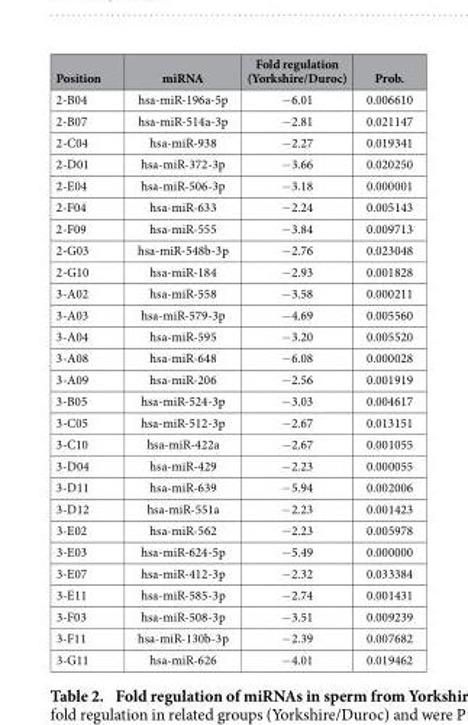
<table><thead><tr><td>Position</td><td>miRNA</td><td>Fold regulation (Yorkshire/Duroc)</td><td>Prob.</td></tr></thead><tbody><tr><td>2-B04</td><td>hsa-miR-196a-5p</td><td>− 6.01</td><td>0.006610</td></tr><tr><td>2-B07</td><td>hsa-miR-514a-3p</td><td>− 2.81</td><td>0.021147</td></tr><tr><td>2-C04</td><td>hsa-miR-938</td><td>− 2.27</td><td>0.019341</td></tr><tr><td>2-D01</td><td>hsa-miR-372-3p</td><td>− 3.66</td><td>0.020250</td></tr><tr><td>2-E04</td><td>hsa-miR-506-3p</td><td>− 3.18</td><td>0.000001</td></tr><tr><td>2-F04</td><td>hsa-miR-633</td><td>− 2.24</td><td>0.005143</td></tr><tr><td>2-F09</td><td>hsa-miR-555</td><td>− 3.84</td><td>0.009713</td></tr><tr><td>2-G03</td><td>hsa-miR-548b-3p</td><td>− 2.76</td><td>0.023048</td></tr><tr><td>2-G10</td><td>hsa-miR-184</td><td>− 2.93</td><td>0.001828</td></tr><tr><td>3-A02</td><td>hsa-miR-558</td><td>− 3.58</td><td>0.000211</td></tr><tr><td>3-A03</td><td>hsa-miR-579-3p</td><td>− 4.69</td><td>0.005560</td></tr><tr><td>3-A04</td><td>hsa-miR-595</td><td>− 3.20</td><td>0.005520</td></tr><tr><td>3-A08</td><td>hsa-miR-648</td><td>− 6.08</td><td>0.000028</td></tr><tr><td>3-A09</td><td>hsa-miR-206</td><td>− 2.56</td><td>0.001919</td></tr><tr><td>3-B05</td><td>hsa-miR-524-3p</td><td>− 3.03</td><td>0.004617</td></tr><tr><td>3-C05</td><td>hsa-miR-512-3p</td><td>− 2.67</td><td>0.013151</td></tr><tr><td>3-C10</td><td>hsa-miR-422a</td><td>− 2.67</td><td>0.001055</td></tr><tr><td>3-D04</td><td>hsa-miR-429</td><td>− 2.23</td><td>0.000055</td></tr><tr><td>3-D11</td><td>hsa-miR-639</td><td>− 5.94</td><td>0.002006</td></tr><tr><td>3-D12</td><td>hsa-miR-551a</td><td>− 2.23</td><td>0.001423</td></tr><tr><td>3-E02</td><td>hsa-miR-562</td><td>− 2.23</td><td>0.005978</td></tr><tr><td>3-E03</td><td>hsa-miR-624-5p</td><td>− 5.49</td><td>0.000000</td></tr><tr><td>3-E07</td><td>hsa-miR-412-3p</td><td>− 2.32</td><td>0.033384</td></tr><tr><td>3-E11</td><td>hsa-miR-585-3p</td><td>− 2.74</td><td>0.001431</td></tr><tr><td>3-F03</td><td>hsa-miR-508-3p</td><td>− 3.51</td><td>0.009239</td></tr><tr><td>3-F11</td><td>hsa-miR-130b-3p</td><td>− 2.39</td><td>0.007682</td></tr><tr><td>3-G11</td><td>hsa-miR-626</td><td>− 4.01</td><td>0.019462</td></tr></tbody></table>